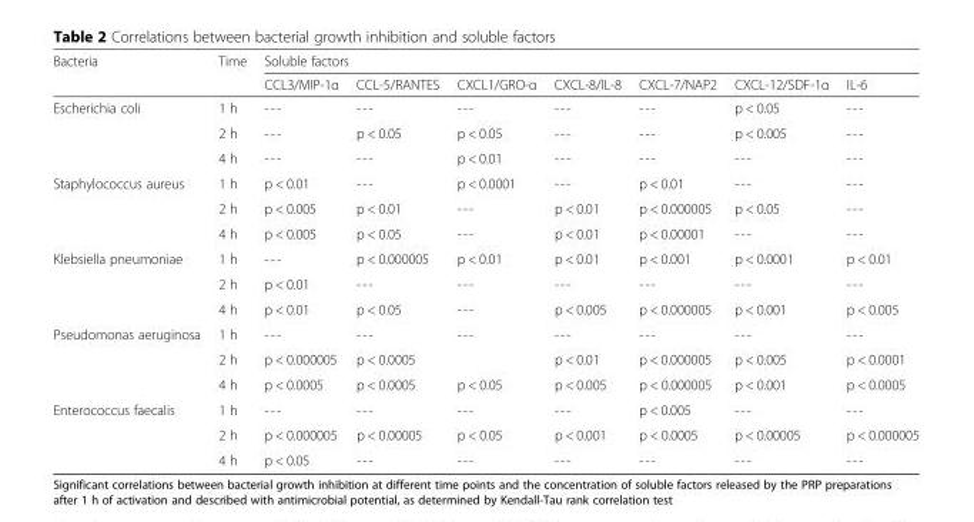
<table><thead><tr><td rowspan="2">Bacteria</td><td rowspan="2">Time</td><td colspan="7">Soluble factors</td></tr><tr><td>CCL3/MIP-1α</td><td>CCL-5/RANTES</td><td>CXCL1/GRO-α</td><td>CXCL-8/IL-8</td><td>CXCL-7/NAP2</td><td>CXCL-12/SDF-1α</td><td>IL-6</td></tr></thead><tbody><tr><td rowspan="3">Escherichia coli</td><td>1 h</td><td>---</td><td>---</td><td>---</td><td>---</td><td>---</td><td>p &lt; 0.05</td><td>---</td></tr><tr><td>2 h</td><td>---</td><td>p &lt; 0.05</td><td>p &lt; 0.05</td><td>---</td><td>---</td><td>p &lt; 0.005</td><td>---</td></tr><tr><td>4 h</td><td>---</td><td>---</td><td>p &lt; 0.01</td><td>---</td><td>---</td><td>---</td><td>---</td></tr><tr><td rowspan="3">Staphylococcus aureus</td><td>1 h</td><td>p &lt; 0.01</td><td>---</td><td>p &lt; 0.0001</td><td>---</td><td>p &lt; 0.01</td><td>---</td><td>---</td></tr><tr><td>2 h</td><td>p &lt; 0.005</td><td>p &lt; 0.01</td><td>---</td><td>p &lt; 0.01</td><td>p &lt; 0.000005</td><td>p &lt; 0.05</td><td>---</td></tr><tr><td>4 h</td><td>p &lt; 0.005</td><td>p &lt; 0.05</td><td>---</td><td>p &lt; 0.01</td><td>p &lt; 0.00001</td><td>---</td><td>---</td></tr><tr><td rowspan="3">Klebsiella pneumoniae</td><td>1 h</td><td>---</td><td>p &lt; 0.000005</td><td>p &lt; 0.01</td><td>p &lt; 0.01</td><td>p &lt; 0.001</td><td>p &lt; 0.0001</td><td>p &lt; 0.01</td></tr><tr><td>2 h</td><td>p &lt; 0.01</td><td>---</td><td>---</td><td>---</td><td>---</td><td>---</td><td>---</td></tr><tr><td>4 h</td><td>p &lt; 0.01</td><td>p &lt; 0.05</td><td>---</td><td>p &lt; 0.005</td><td>p &lt; 0.000005</td><td>p &lt; 0.001</td><td>p &lt; 0.005</td></tr><tr><td rowspan="3">Pseudomonas aeruginosa</td><td>1 h</td><td>---</td><td>---</td><td>---</td><td>---</td><td>---</td><td>---</td><td>---</td></tr><tr><td>2 h</td><td>p &lt; 0.000005</td><td>p &lt; 0.0005</td><td></td><td>p &lt; 0.01</td><td>p &lt; 0.000005</td><td>p &lt; 0.005</td><td>p &lt; 0.0001</td></tr><tr><td>4 h</td><td>p &lt; 0.0005</td><td>p &lt; 0.0005</td><td>p &lt; 0.05</td><td>p &lt; 0.005</td><td>p &lt; 0.000005</td><td>p &lt; 0.001</td><td>p &lt; 0.0005</td></tr><tr><td rowspan="3">Enterococcus faecalis</td><td>1 h</td><td>---</td><td>---</td><td>---</td><td>---</td><td>p &lt; 0.005</td><td>---</td><td>---</td></tr><tr><td>2 h</td><td>p &lt; 0.000005</td><td>p &lt; 0.00005</td><td>p &lt; 0.05</td><td>p &lt; 0.001</td><td>p &lt; 0.0005</td><td>p &lt; 0.00005</td><td>p &lt; 0.000005</td></tr><tr><td>4 h</td><td>p &lt; 0.05</td><td>---</td><td>---</td><td>---</td><td>---</td><td>---</td><td>---</td></tr></tbody></table>